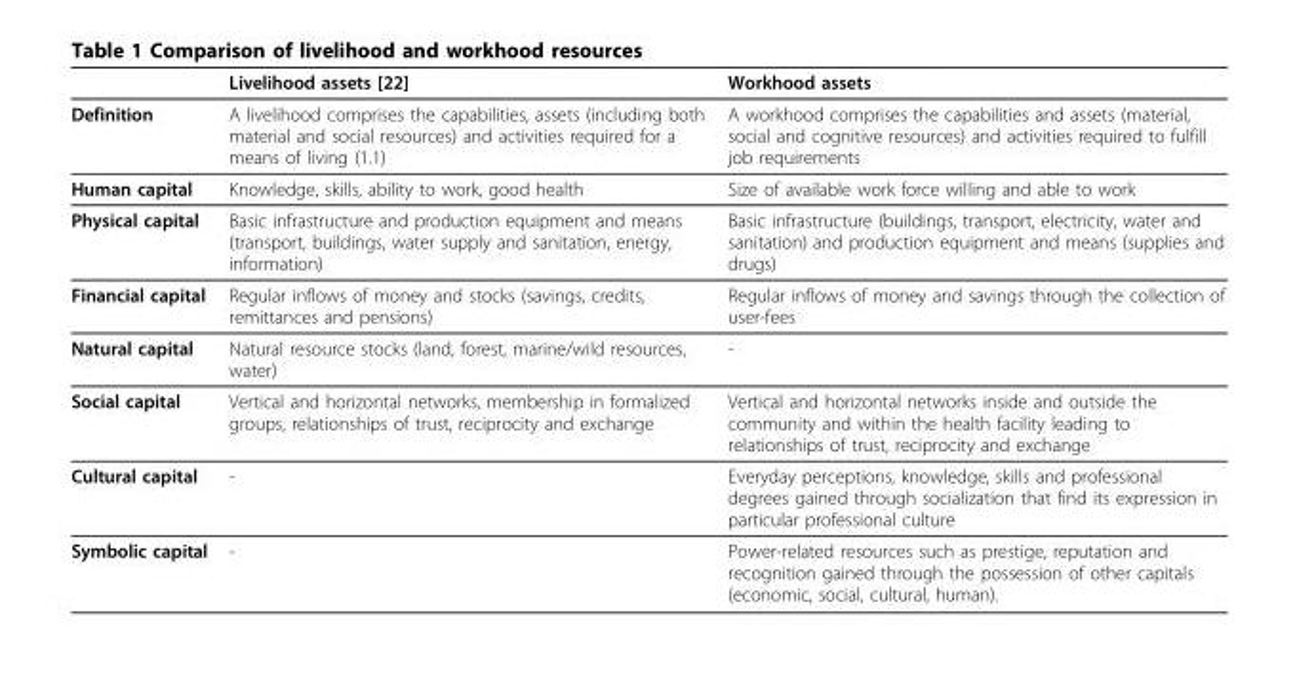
<table><thead><tr><td></td><td>Livelihood assets [22]</td><td>Workhood assets</td></tr></thead><tbody><tr><td>Definition</td><td>A livelihood comprises the capabilities, assets (including both material and social resources) and activities required for a means of living (1.1)</td><td>A workhood comprises the capabilities and assets (material, social and cognitive resources) and activities required to fulfill job requirements</td></tr><tr><td>Human capital</td><td>Knowledge, skills, ability to work, good health</td><td>Size of available work force willing and able to work</td></tr><tr><td>Physical capital</td><td>Basic infrastructure and production equipment and means (transport, buildings, water supply and sanitation, energy, information)</td><td>Basic infrastructure (buildings, transport, electricity, water and sanitation) and production equipment and means (supplies and drugs)</td></tr><tr><td>Financial capital</td><td>Regular inflows of money and stocks (savings, credits, remittances and pensions)</td><td>Regular inflows of money and savings through the collection of user-fees</td></tr><tr><td>Natural capital</td><td>Natural resource stocks (land, forest, marine/wild resources, water)</td><td>-</td></tr><tr><td>Social capital</td><td>Vertical and horizontal networks, membership in formalized groups, relationships of trust, reciprocity and exchange</td><td>Vertical and horizontal networks inside and outside the community and within the health facility leading to relationships of trust, reciprocity and exchange</td></tr><tr><td>Cultural capital</td><td>-</td><td>Everyday perceptions, knowledge, skills and professional degrees gained through socialization that find its expression in particular professional culture</td></tr><tr><td>Symbolic capital</td><td>-</td><td>Power-related resources such as prestige, reputation and recognition gained through the possession of other capitals (economic, social, cultural, human).</td></tr></tbody></table>